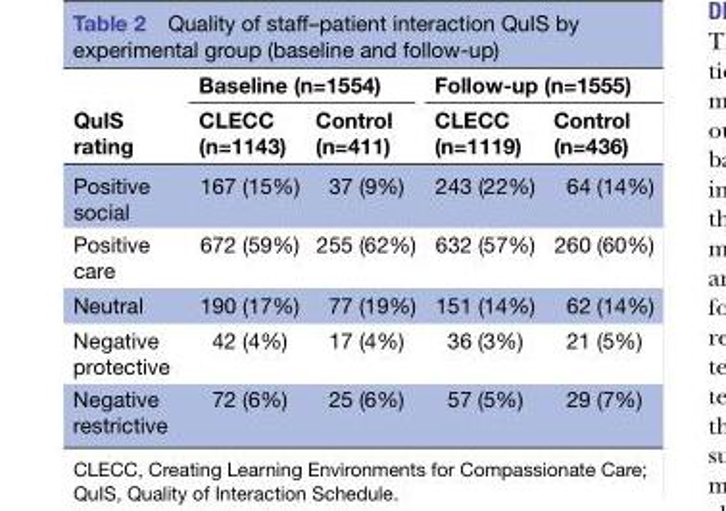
<table><thead><tr><td rowspan="2">QuIS rating</td><td colspan="2">Baseline (n=1554)</td><td colspan="2">Follow-up (n=1555)</td></tr><tr><td>CLECC (n=1143)</td><td>Control (n=411)</td><td>CLECC (n=1119)</td><td>Control (n=436)</td></tr></thead><tbody><tr><td>Positive social</td><td>167 (15%)</td><td>37 (9%)</td><td>243 (22%)</td><td>64 (14%)</td></tr><tr><td>Positive care</td><td>672 (59%)</td><td>255 (62%)</td><td>632 (57%)</td><td>260 (60%)</td></tr><tr><td>Neutral</td><td>190 (17%)</td><td>77 (19%)</td><td>151 (14%)</td><td>62 (14%)</td></tr><tr><td>Negative protective</td><td>42 (4%)</td><td>17 (4%)</td><td>36 (3%)</td><td>21 (5%)</td></tr><tr><td>Negative restrictive</td><td>72 (6%)</td><td>25 (6%)</td><td>57 (5%)</td><td>29 (7%)</td></tr></tbody></table>